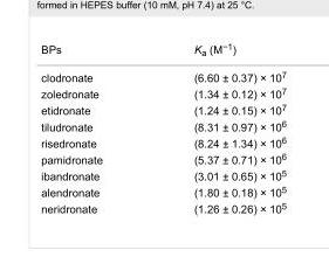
<table><tbody><tr><td>BPs</td><td>K<sub>a</sub> (M<sup>−1</sup>)</td></tr><tr><td>clodronate</td><td>(6.60 ± 0.37) × 10<sup>7</sup></td></tr><tr><td>zoledronate</td><td>(1.34 ± 0.12) × 10<sup>7</sup></td></tr><tr><td>etidronate</td><td>(1.24 ± 0.15) × 10<sup>7</sup></td></tr><tr><td>tiludronate</td><td>(8.31 ± 0.97) × 10<sup>6</sup></td></tr><tr><td>risedronate</td><td>(8.24 ± 1.34) × 10<sup>6</sup></td></tr><tr><td>pamidronate</td><td>(5.37 ± 0.71) × 10<sup>6</sup></td></tr><tr><td>ibandronate</td><td>(3.01 ± 0.65) × 10<sup>5</sup></td></tr><tr><td>alendronate</td><td>(1.80 ± 0.18) × 10<sup>5</sup></td></tr><tr><td>neridronate</td><td>(1.26 ± 0.26) × 10<sup>5</sup></td></tr></tbody></table>